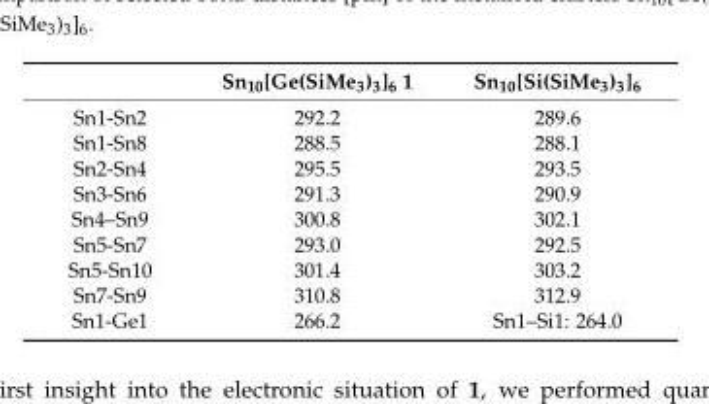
<table><thead><tr><td></td><td>Sn<sub>10</sub>[Ge(SiMe<sub>3</sub>)<sub>3</sub>]<sub>6</sub> 1</td><td>Sn<sub>10</sub>[Si(SiMe<sub>3</sub>)<sub>3</sub>]<sub>6</sub></td></tr></thead><tbody><tr><td>Sn1-Sn2</td><td>292.2</td><td>289.6</td></tr><tr><td>Sn1-Sn8</td><td>288.5</td><td>288.1</td></tr><tr><td>Sn2-Sn4</td><td>295.5</td><td>293.5</td></tr><tr><td>Sn3-Sn6</td><td>291.3</td><td>290.9</td></tr><tr><td>Sn4–Sn9</td><td>300.8</td><td>302.1</td></tr><tr><td>Sn5-Sn7</td><td>293.0</td><td>292.5</td></tr><tr><td>Sn5-Sn10</td><td>301.4</td><td>303.2</td></tr><tr><td>Sn7-Sn9</td><td>310.8</td><td>312.9</td></tr><tr><td>Sn1-Ge1</td><td>266.2</td><td>Sn1–Si1: 264.0</td></tr></tbody></table>